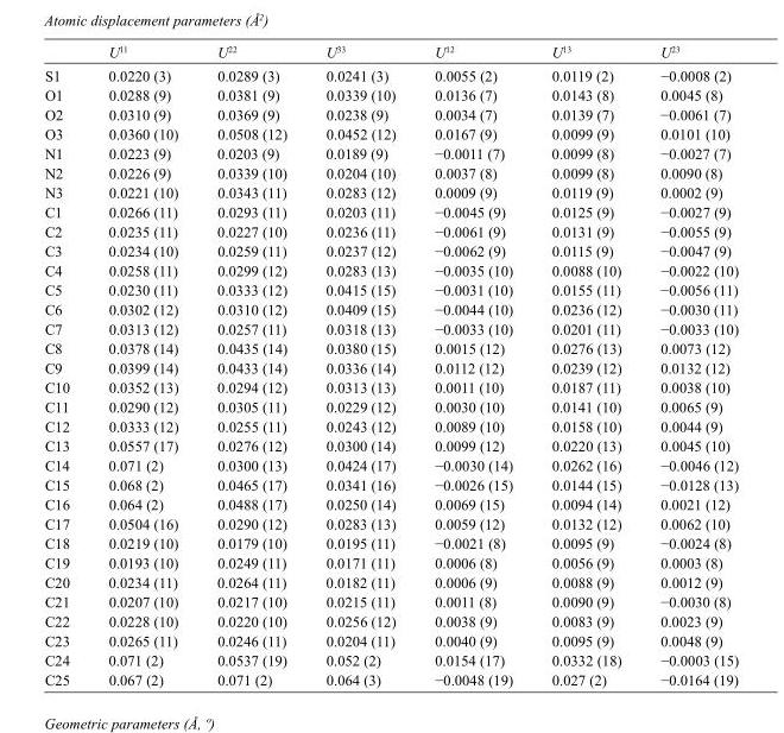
<table><thead><tr><td></td><td>U<sup>11</sup></td><td>U<sup>22</sup></td><td>U<sup>33</sup></td><td>U<sup>12</sup></td><td>U<sup>13</sup></td><td>U<sup>23</sup></td></tr></thead><tbody><tr><td>S1</td><td>0.0220 (3)</td><td>0.0289 (3)</td><td>0.0241 (3)</td><td>0.0055 (2)</td><td>0.0119 (2)</td><td>−0.0008 (2)</td></tr><tr><td>O1</td><td>0.0288 (9)</td><td>0.0381 (9)</td><td>0.0339 (10)</td><td>0.0136 (7)</td><td>0.0143 (8)</td><td>0.0045 (8)</td></tr><tr><td>O2</td><td>0.0310 (9)</td><td>0.0369 (9)</td><td>0.0238 (9)</td><td>0.0034 (7)</td><td>0.0139 (7)</td><td>−0.0061 (7)</td></tr><tr><td>O3</td><td>0.0360 (10)</td><td>0.0508 (12)</td><td>0.0452 (12)</td><td>0.0167 (9)</td><td>0.0099 (9)</td><td>0.0101 (10)</td></tr><tr><td>N1</td><td>0.0223 (9)</td><td>0.0203 (9)</td><td>0.0189 (9)</td><td>−0.0011 (7)</td><td>0.0099 (8)</td><td>−0.0027 (7)</td></tr><tr><td>N2</td><td>0.0226 (9)</td><td>0.0339 (10)</td><td>0.0204 (10)</td><td>0.0037 (8)</td><td>0.0099 (8)</td><td>0.0090 (8)</td></tr><tr><td>N3</td><td>0.0221 (10)</td><td>0.0343 (11)</td><td>0.0283 (12)</td><td>0.0009 (9)</td><td>0.0119 (9)</td><td>0.0002 (9)</td></tr><tr><td>C1</td><td>0.0266 (11)</td><td>0.0293 (11)</td><td>0.0203 (11)</td><td>−0.0045 (9)</td><td>0.0125 (9)</td><td>−0.0027 (9)</td></tr><tr><td>C2</td><td>0.0235 (11)</td><td>0.0227 (10)</td><td>0.0236 (11)</td><td>−0.0061 (9)</td><td>0.0131 (9)</td><td>−0.0055 (9)</td></tr><tr><td>C3</td><td>0.0234 (10)</td><td>0.0259 (11)</td><td>0.0237 (12)</td><td>−0.0062 (9)</td><td>0.0115 (9)</td><td>−0.0047 (9)</td></tr><tr><td>C4</td><td>0.0258 (11)</td><td>0.0299 (12)</td><td>0.0283 (13)</td><td>−0.0035 (10)</td><td>0.0088 (10)</td><td>−0.0022 (10)</td></tr><tr><td>C5</td><td>0.0230 (11)</td><td>0.0333 (12)</td><td>0.0415 (15)</td><td>−0.0031 (10)</td><td>0.0155 (11)</td><td>−0.0056 (11)</td></tr><tr><td>C6</td><td>0.0302 (12)</td><td>0.0310 (12)</td><td>0.0409 (15)</td><td>−0.0044 (10)</td><td>0.0236 (12)</td><td>−0.0030 (11)</td></tr><tr><td>C7</td><td>0.0313 (12)</td><td>0.0257 (11)</td><td>0.0318 (13)</td><td>−0.0033 (10)</td><td>0.0201 (11)</td><td>−0.0033 (10)</td></tr><tr><td>C8</td><td>0.0378 (14)</td><td>0.0435 (14)</td><td>0.0380 (15)</td><td>0.0015 (12)</td><td>0.0276 (13)</td><td>0.0073 (12)</td></tr><tr><td>C9</td><td>0.0399 (14)</td><td>0.0433 (14)</td><td>0.0336 (14)</td><td>0.0112 (12)</td><td>0.0239 (12)</td><td>0.0132 (12)</td></tr><tr><td>C10</td><td>0.0352 (13)</td><td>0.0294 (12)</td><td>0.0313 (13)</td><td>0.0011 (10)</td><td>0.0187 (11)</td><td>0.0038 (10)</td></tr><tr><td>C11</td><td>0.0290 (12)</td><td>0.0305 (11)</td><td>0.0229 (12)</td><td>0.0030 (10)</td><td>0.0141 (10)</td><td>0.0065 (9)</td></tr><tr><td>C12</td><td>0.0333 (12)</td><td>0.0255 (11)</td><td>0.0243 (12)</td><td>0.0089 (10)</td><td>0.0158 (10)</td><td>0.0044 (9)</td></tr><tr><td>C13</td><td>0.0557 (17)</td><td>0.0276 (12)</td><td>0.0300 (14)</td><td>0.0099 (12)</td><td>0.0220 (13)</td><td>0.0045 (10)</td></tr><tr><td>C14</td><td>0.071 (2)</td><td>0.0300 (13)</td><td>0.0424 (17)</td><td>−0.0030 (14)</td><td>0.0262 (16)</td><td>−0.0046 (12)</td></tr><tr><td>C15</td><td>0.068 (2)</td><td>0.0465 (17)</td><td>0.0341 (16)</td><td>−0.0026 (15)</td><td>0.0144 (15)</td><td>−0.0128 (13)</td></tr><tr><td>C16</td><td>0.064 (2)</td><td>0.0488 (17)</td><td>0.0250 (14)</td><td>0.0069 (15)</td><td>0.0094 (14)</td><td>0.0021 (12)</td></tr><tr><td>C17</td><td>0.0504 (16)</td><td>0.0290 (12)</td><td>0.0283 (13)</td><td>0.0059 (12)</td><td>0.0132 (12)</td><td>0.0062 (10)</td></tr><tr><td>C18</td><td>0.0219 (10)</td><td>0.0179 (10)</td><td>0.0195 (11)</td><td>−0.0021 (8)</td><td>0.0095 (9)</td><td>−0.0024 (8)</td></tr><tr><td>C19</td><td>0.0193 (10)</td><td>0.0249 (11)</td><td>0.0171 (11)</td><td>0.0006 (8)</td><td>0.0056 (9)</td><td>0.0003 (8)</td></tr><tr><td>C20</td><td>0.0234 (11)</td><td>0.0264 (11)</td><td>0.0182 (11)</td><td>0.0006 (9)</td><td>0.0088 (9)</td><td>0.0012 (9)</td></tr><tr><td>C21</td><td>0.0207 (10)</td><td>0.0217 (10)</td><td>0.0215 (11)</td><td>0.0011 (8)</td><td>0.0090 (9)</td><td>−0.0030 (8)</td></tr><tr><td>C22</td><td>0.0228 (10)</td><td>0.0220 (10)</td><td>0.0256 (12)</td><td>0.0038 (9)</td><td>0.0083 (9)</td><td>0.0023 (9)</td></tr><tr><td>C23</td><td>0.0265 (11)</td><td>0.0246 (11)</td><td>0.0204 (11)</td><td>0.0040 (9)</td><td>0.0095 (9)</td><td>0.0048 (9)</td></tr><tr><td>C24</td><td>0.071 (2)</td><td>0.0537 (19)</td><td>0.052 (2)</td><td>0.0154 (17)</td><td>0.0332 (18)</td><td>−0.0003 (15)</td></tr><tr><td>C25</td><td>0.067 (2)</td><td>0.071 (2)</td><td>0.064 (3)</td><td>−0.0048 (19)</td><td>0.027 (2)</td><td>−0.0164 (19)</td></tr></tbody></table>